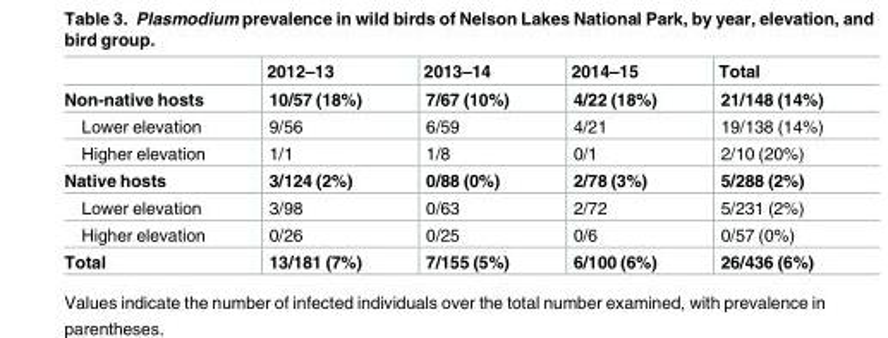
<table><thead><tr><td></td><td>2012–13</td><td>2013–14</td><td>2014–15</td><td>Total</td></tr></thead><tbody><tr><td>Non-native hosts</td><td>10/57 (18%)</td><td>7/67 (10%)</td><td>4/22 (18%)</td><td>21/148 (14%)</td></tr><tr><td>Lower elevation</td><td>9/56</td><td>6/59</td><td>4/21</td><td>19/138 (14%)</td></tr><tr><td>Higher elevation</td><td>1/1</td><td>1/8</td><td>0/1</td><td>2/10 (20%)</td></tr><tr><td>Native hosts</td><td>3/124 (2%)</td><td>0/88 (0%)</td><td>2/78 (3%)</td><td>5/288 (2%)</td></tr><tr><td>Lower elevation</td><td>3/98</td><td>0/63</td><td>2/72</td><td>5/231 (2%)</td></tr><tr><td>Higher elevation</td><td>0/26</td><td>0/25</td><td>0/6</td><td>0/57 (0%)</td></tr><tr><td>Total</td><td>13/181 (7%)</td><td>7/155 (5%)</td><td>6/100 (6%)</td><td>26/436 (6%)</td></tr></tbody></table>